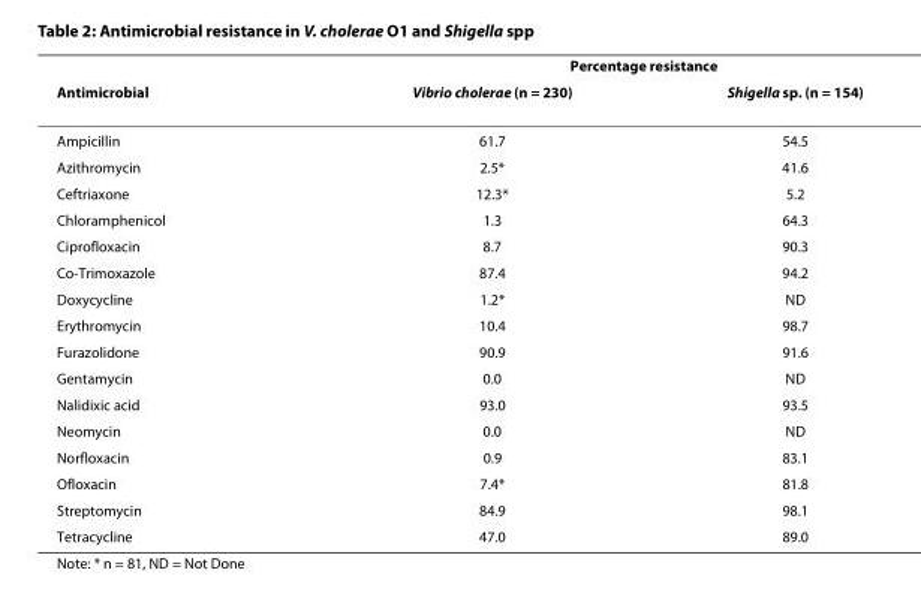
<table><thead><tr><td rowspan="2">Antimicrobial</td><td colspan="2">Percentage resistance</td></tr><tr><td>Vibrio cholerae (n = 230)</td><td>Shigella sp. (n = 154)</td></tr></thead><tbody><tr><td>Ampicillin</td><td>61.7</td><td>54.5</td></tr><tr><td>Azithromycin</td><td>2.5*</td><td>41.6</td></tr><tr><td>Ceftriaxone</td><td>12.3*</td><td>5.2</td></tr><tr><td>Chloramphenicol</td><td>1.3</td><td>64.3</td></tr><tr><td>Ciprofloxacin</td><td>8.7</td><td>90.3</td></tr><tr><td>Co-Trimoxazole</td><td>87.4</td><td>94.2</td></tr><tr><td>Doxycycline</td><td>1.2*</td><td>ND</td></tr><tr><td>Erythromycin</td><td>10.4</td><td>98.7</td></tr><tr><td>Furazolidone</td><td>90.9</td><td>91.6</td></tr><tr><td>Gentamycin</td><td>0.0</td><td>ND</td></tr><tr><td>Nalidixic acid</td><td>93.0</td><td>93.5</td></tr><tr><td>Neomycin</td><td>0.0</td><td>ND</td></tr><tr><td>Norfloxacin</td><td>0.9</td><td>83.1</td></tr><tr><td>Ofloxacin</td><td>7.4*</td><td>81.8</td></tr><tr><td>Streptomycin</td><td>84.9</td><td>98.1</td></tr><tr><td>Tetracycline</td><td>47.0</td><td>89.0</td></tr></tbody></table>